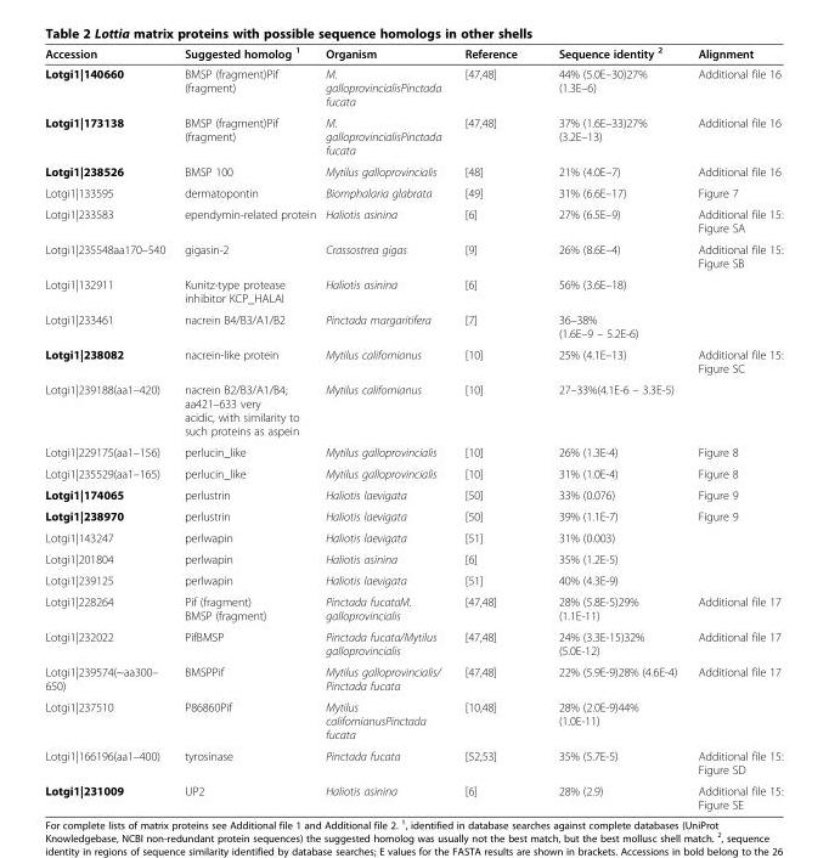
<table><thead><tr><td>Accession</td><td>Suggested homolog <sup>1</sup></td><td>Organism</td><td>Reference</td><td>Sequence identity <sup>2</sup></td><td>Alignment</td></tr></thead><tbody><tr><td>Lotgi1|140660</td><td>BMSP (fragment)Pif (fragment)</td><td>M. galloprovincialisPinctada fucata</td><td>[47,48]</td><td>44% (5.0E–30)27% (1.3E–6)</td><td>Additional file 16</td></tr><tr><td>Lotgi1|173138</td><td>BMSP (fragment)Pif (fragment)</td><td>M. galloprovincialisPinctada fucata</td><td>[47,48]</td><td>37% (1.6E–33)27% (3.2E–13)</td><td>Additional file 16</td></tr><tr><td>Lotgi1|238526</td><td>BMSP 100</td><td>Mytilus galloprovincialis</td><td>[48]</td><td>21% (4.0E–7)</td><td>Additional file 16</td></tr><tr><td>Lotgi1|133595</td><td>dermatopontin</td><td>Biomphalaria glabrata</td><td>[49]</td><td>31% (6.6E–17)</td><td>Figure 7</td></tr><tr><td>Lotgi1|233583</td><td>ependymin-related protein</td><td>Haliotis asinina</td><td>[6]</td><td>27% (6.5E–9)</td><td>Additional file 15: Figure SA</td></tr><tr><td>Lotgi1|235548aa170–540</td><td>gigasin-2</td><td>Crassostrea gigas</td><td>[9]</td><td>26% (8.6E–4)</td><td>Additional file 15: Figure SB</td></tr><tr><td>Lotgi1|132911</td><td>Kunitz-type protease inhibitor KCP_HALAI</td><td>Haliotis asinina</td><td>[6]</td><td>56% (3.6E–18)</td><td></td></tr><tr><td>Lotgi1|233461</td><td>nacrein B4/B3/A1/B2</td><td>Pinctada margaritifera</td><td>[7]</td><td>36–38% (1.6E–9 – 5.2E-6)</td><td></td></tr><tr><td>Lotgi1|238082</td><td>nacrein-like protein</td><td>Mytilus californianus</td><td>[10]</td><td>25% (4.1E–13)</td><td>Additional file 15: Figure SC</td></tr><tr><td>Lotgi1|239188(aa1–420)</td><td>nacrein B2/B3/A1/B4; aa421–633 very acidic, with similarity to such proteins as aspein</td><td>Mytilus californianus</td><td>[10]</td><td>27–33%(4.1E-6 – 3.3E-5)</td><td></td></tr><tr><td>Lotgi1|229175(aa1–156)</td><td>perlucin_like</td><td>Mytilus galloprovincialis</td><td>[10]</td><td>26% (1.3E-4)</td><td>Figure 8</td></tr><tr><td>Lotgi1|235529(aa1–165)</td><td>perlucin_like</td><td>Mytilus galloprovincialis</td><td>[10]</td><td>31% (1.0E-4)</td><td>Figure 8</td></tr><tr><td>Lotgi1|174065</td><td>perlustrin</td><td>Haliotis laevigata</td><td>[50]</td><td>33% (0.076)</td><td>Figure 9</td></tr><tr><td>Lotgi1|238970</td><td>perlustrin</td><td>Haliotis laevigata</td><td>[50]</td><td>39% (1.1E-7)</td><td>Figure 9</td></tr><tr><td>Lotgi1|143247</td><td>perlwapin</td><td>Haliotis laevigata</td><td>[51]</td><td>31% (0.003)</td><td></td></tr><tr><td>Lotgi1|201804</td><td>perlwapin</td><td>Haliotis asinina</td><td>[6]</td><td>35% (1.2E-5)</td><td></td></tr><tr><td>Lotgi1|239125</td><td>perlwapin</td><td>Haliotis laevigata</td><td>[51]</td><td>40% (4.3E-9)</td><td></td></tr><tr><td>Lotgi1|228264</td><td>Pif (fragment) BMSP (fragment)</td><td>Pinctada fucataM. galloprovincialis</td><td>[47,48]</td><td>28% (5.8E-5)29% (1.1E-11)</td><td>Additional file 17</td></tr><tr><td>Lotgi1|232022</td><td>PifBMSP</td><td>Pinctada fucata/Mytilus galloprovincialis</td><td>[47,48]</td><td>24% (3.3E-15)32% (5.0E-12)</td><td>Additional file 17</td></tr><tr><td>Lotgi1|239574(~aa300– 650)</td><td>BMSPPif</td><td>Mytilus galloprovincialis/ Pinctada fucata</td><td>[47,48]</td><td>22% (5.9E-9)28% (4.6E-4)</td><td>Additional file 17</td></tr><tr><td>Lotgi1|237510</td><td>P86860Pif</td><td>Mytilus californianusPinctada fucata</td><td>[10,48]</td><td>28% (2.0E-9)44% (1.0E-11)</td><td></td></tr><tr><td>Lotgi1|166196(aa1–400)</td><td>tyrosinase</td><td>Pinctada fucata</td><td>[52,53]</td><td>35% (5.7E-5)</td><td>Additional file 15: Figure SD</td></tr><tr><td>Lotgi1|231009</td><td>UP2</td><td>Haliotis asinina</td><td>[6]</td><td>28% (2.9)</td><td>Additional file 15: Figure SE</td></tr></tbody></table>